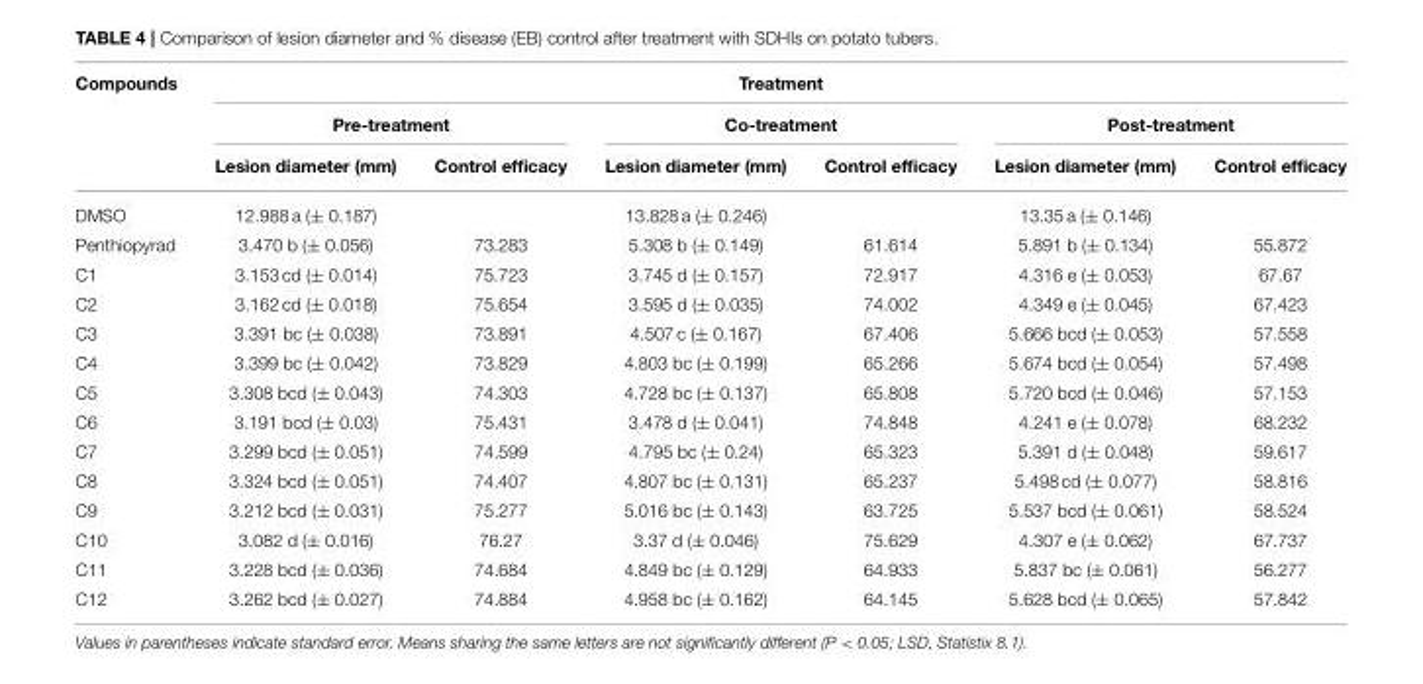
<table><thead><tr><td rowspan="3">Compounds</td><td colspan="6">Treatment</td></tr><tr><td colspan="2">Pre-treatment</td><td colspan="2">Co-treatment</td><td colspan="2">Post-treatment</td></tr><tr><td>Lesion diameter (mm)</td><td>Control efficacy</td><td>Lesion diameter (mm)</td><td>Control efficacy</td><td>Lesion diameter (mm)</td><td>Control efficacy</td></tr></thead><tbody><tr><td>DMSO</td><td>12.988 a (± 0.187)</td><td></td><td>13.828 a (± 0.246)</td><td></td><td>13.35 a (± 0.146)</td><td></td></tr><tr><td>Penthiopyrad</td><td>3.470 b (± 0.056)</td><td>73.283</td><td>5.308 b (± 0.149)</td><td>61.614</td><td>5.891 b (± 0.134)</td><td>55.872</td></tr><tr><td>C1</td><td>3.153 cd (± 0.014)</td><td>75.723</td><td>3.745 d (± 0.157)</td><td>72.917</td><td>4.316 e (± 0.053)</td><td>67.67</td></tr><tr><td>C2</td><td>3.162 cd (± 0.018)</td><td>75.654</td><td>3.595 d (± 0.035)</td><td>74.002</td><td>4.349 e (± 0.045)</td><td>67.423</td></tr><tr><td>C3</td><td>3.391 bc (± 0.038)</td><td>73.891</td><td>4.507 c (± 0.167)</td><td>67.406</td><td>5.666 bcd (± 0.053)</td><td>57.558</td></tr><tr><td>C4</td><td>3.399 bc (± 0.042)</td><td>73.829</td><td>4.803 bc (± 0.199)</td><td>65.266</td><td>5.674 bcd (± 0.054)</td><td>57.498</td></tr><tr><td>C5</td><td>3.308 bcd (± 0.043)</td><td>74.303</td><td>4.728 bc (± 0.137)</td><td>65.808</td><td>5.720 bcd (± 0.046)</td><td>57.153</td></tr><tr><td>C6</td><td>3.191 bcd (± 0.03)</td><td>75.431</td><td>3.478 d (± 0.041)</td><td>74.848</td><td>4.241 e (± 0.078)</td><td>68.232</td></tr><tr><td>C7</td><td>3.299 bcd (± 0.051)</td><td>74.599</td><td>4.795 bc (± 0.24)</td><td>65.323</td><td>5.391 d (± 0.048)</td><td>59.617</td></tr><tr><td>C8</td><td>3.324 bcd (± 0.051)</td><td>74.407</td><td>4.807 bc (± 0.131)</td><td>65.237</td><td>5.498 cd (± 0.077)</td><td>58.816</td></tr><tr><td>C9</td><td>3.212 bcd (± 0.031)</td><td>75.277</td><td>5.016 bc (± 0.143)</td><td>63.725</td><td>5.537 bcd (± 0.061)</td><td>58.524</td></tr><tr><td>C10</td><td>3.082 d (± 0.016)</td><td>76.27</td><td>3.37 d (± 0.046)</td><td>75.629</td><td>4.307 e (± 0.062)</td><td>67.737</td></tr><tr><td>C11</td><td>3.228 bcd (± 0.036)</td><td>74.684</td><td>4.849 bc (± 0.129)</td><td>64.933</td><td>5.837 bc (± 0.061)</td><td>56.277</td></tr><tr><td>C12</td><td>3.262 bcd (± 0.027)</td><td>74.884</td><td>4.958 bc (± 0.162)</td><td>64.145</td><td>5.628 bcd (± 0.065)</td><td>57.842</td></tr></tbody></table>